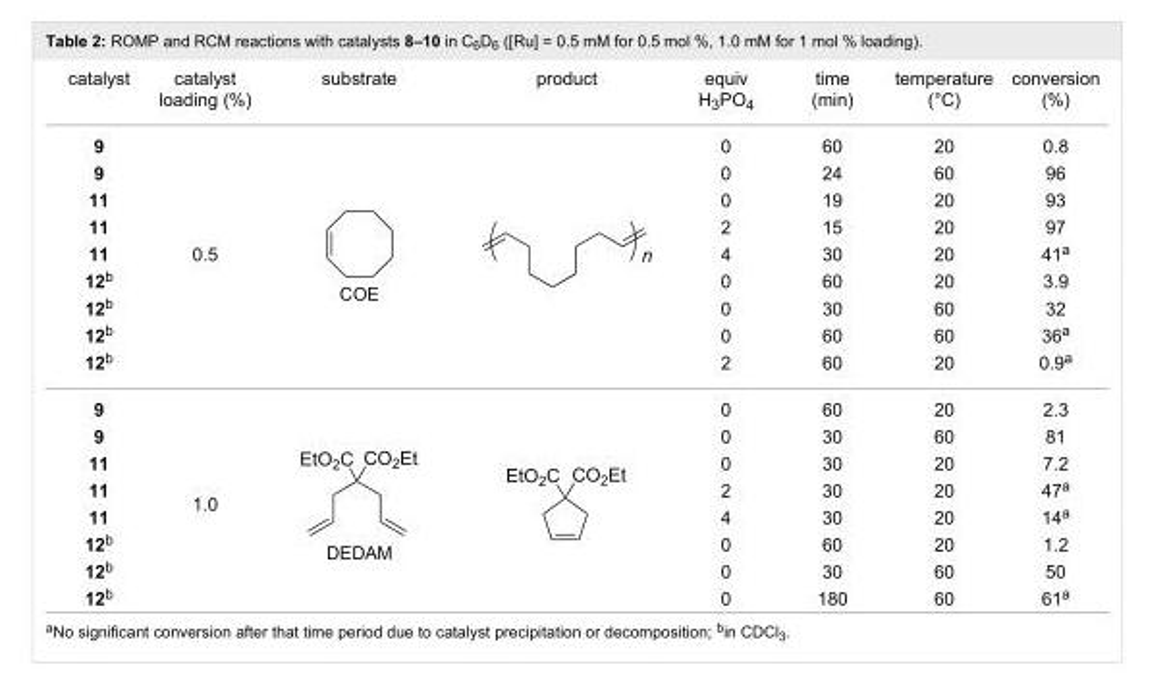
<table><tbody><tr><td>catalyst</td><td>catalyst loading (%)</td><td>substrate</td><td>product</td><td>equiv H<sub>3</sub>PO<sub>4</sub></td><td>time (min)</td><td>temperature (°C)</td><td>conversion (%)</td></tr><tr><td>9</td><td rowspan="9">0.5</td><td rowspan="9">COE</td><td rowspan="9"></td><td>0</td><td>60</td><td>20</td><td>0.8</td></tr><tr><td>9</td><td>0</td><td>24</td><td>60</td><td>96</td></tr><tr><td>11</td><td>0</td><td>19</td><td>20</td><td>93</td></tr><tr><td>11</td><td>2</td><td>15</td><td>20</td><td>97</td></tr><tr><td>11</td><td>4</td><td>30</td><td>20</td><td>41<sup>a</sup></td></tr><tr><td>12<sup>b</sup></td><td>0</td><td>60</td><td>20</td><td>3.9</td></tr><tr><td>12<sup>b</sup></td><td>0</td><td>30</td><td>60</td><td>32</td></tr><tr><td>12<sup>b</sup></td><td>0</td><td>60</td><td>60</td><td>36<sup>a</sup></td></tr><tr><td>12<sup>b</sup></td><td>2</td><td>60</td><td>20</td><td>0.9<sup>a</sup></td></tr><tr><td>9</td><td rowspan="8">1.0</td><td rowspan="8">DEDAM</td><td rowspan="8"></td><td>0</td><td>60</td><td>20</td><td>2.3</td></tr><tr><td>9</td><td>0</td><td>30</td><td>60</td><td>81</td></tr><tr><td>11</td><td>0</td><td>30</td><td>20</td><td>7.2</td></tr><tr><td>11</td><td>2</td><td>30</td><td>20</td><td>47<sup>a</sup></td></tr><tr><td>11</td><td>4</td><td>30</td><td>20</td><td>14<sup>a</sup></td></tr><tr><td>12<sup>b</sup></td><td>0</td><td>60</td><td>20</td><td>1.2</td></tr><tr><td>12<sup>b</sup></td><td>0</td><td>30</td><td>60</td><td>50</td></tr><tr><td>12<sup>b</sup></td><td>0</td><td>180</td><td>60</td><td>61<sup>a</sup></td></tr></tbody></table>